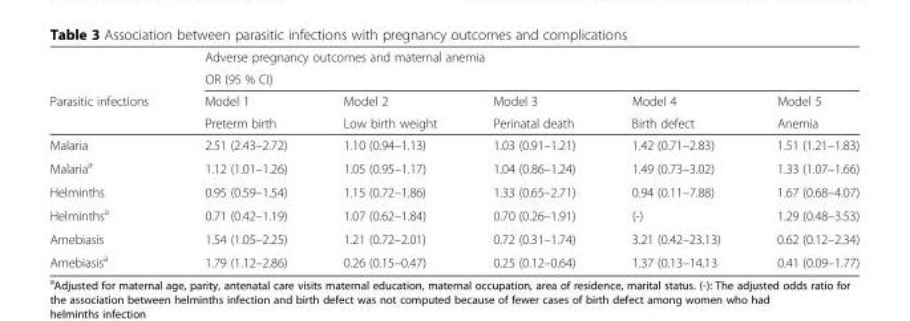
<table><thead><tr><td rowspan="4">Parasitic infections</td><td rowspan="2" colspan="5">Adverse pregnancy outcomes and maternal anemia OR (95 % CI)</td></tr><tr></tr><tr><td rowspan="2">Model 1 Preterm birth</td><td rowspan="2">Model 2 Low birth weight</td><td rowspan="2">Model 3 Perinatal death</td><td rowspan="2">Model 4 Birth defect</td><td rowspan="2">Model 5 Anemia</td></tr><tr></tr></thead><tbody><tr><td>Malaria</td><td>2.51 (2.43–2.72)</td><td>1.10 (0.94–1.13)</td><td>1.03 (0.91–1.21)</td><td>1.42 (0.71–2.83)</td><td>1.51 (1.21–1.83)</td></tr><tr><td>Malaria<sup>a</sup></td><td>1.12 (1.01–1.26)</td><td>1.05 (0.95–1.17)</td><td>1.04 (0.86–1.24)</td><td>1.49 (0.73–3.02)</td><td>1.33 (1.07–1.66)</td></tr><tr><td>Helminths</td><td>0.95 (0.59–1.54)</td><td>1.15 (0.72–1.86)</td><td>1.33 (0.65–2.71)</td><td>0.94 (0.11–7.88)</td><td>1.67 (0.68–4.07)</td></tr><tr><td>Helminths<sup>a</sup></td><td>0.71 (0.42–1.19)</td><td>1.07 (0.62–1.84)</td><td>0.70 (0.26–1.91)</td><td>(-)</td><td>1.29 (0.48–3.53)</td></tr><tr><td>Amebiasis</td><td>1.54 (1.05–2.25)</td><td>1.21 (0.72–2.01)</td><td>0.72 (0.31–1.74)</td><td>3.21 (0.42–23.13)</td><td>0.62 (0.12–2.34)</td></tr><tr><td>Amebiasis<sup>a</sup></td><td>1.79 (1.12–2.86)</td><td>0.26 (0.15–0.47)</td><td>0.25 (0.12–0.64)</td><td>1.37 (0.13–14.13</td><td>0.41 (0.09–1.77)</td></tr></tbody></table>